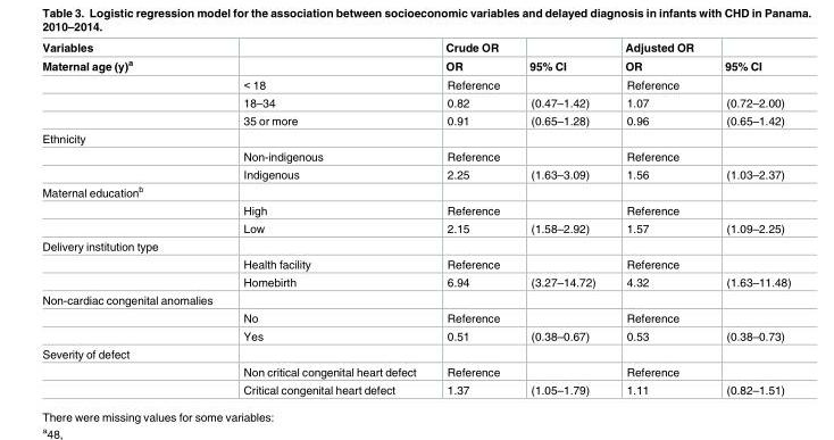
<table><thead><tr><td rowspan="2">Variables Maternal age (y)<sup>a</sup></td><td rowspan="2"></td><td rowspan="2">Crude OR OR</td><td rowspan="2">95% CI</td><td rowspan="2">Adjusted OR OR</td><td rowspan="2">95% CI</td></tr><tr></tr></thead><tbody><tr><td></td><td>&lt; 18</td><td>Reference</td><td></td><td>Reference</td><td></td></tr><tr><td></td><td>18–34</td><td>0.82</td><td>(0.47–1.42)</td><td>1.07</td><td>(0.72–2.00)</td></tr><tr><td></td><td>35 or more</td><td>0.91</td><td>(0.65–1.28)</td><td>0.96</td><td>(0.65–1.42)</td></tr><tr><td colspan="6">Ethnicity</td></tr><tr><td></td><td>Non-indigenous</td><td>Reference</td><td></td><td>Reference</td><td></td></tr><tr><td></td><td>Indigenous</td><td>2.25</td><td>(1.63–3.09)</td><td>1.56</td><td>(1.03–2.37)</td></tr><tr><td colspan="6">Maternal education<sup>b</sup></td></tr><tr><td></td><td>High</td><td>Reference</td><td></td><td>Reference</td><td></td></tr><tr><td></td><td>Low</td><td>2.15</td><td>(1.58–2.92)</td><td>1.57</td><td>(1.09–2.25)</td></tr><tr><td colspan="6">Delivery institution type</td></tr><tr><td></td><td>Health facility</td><td>Reference</td><td></td><td>Reference</td><td></td></tr><tr><td></td><td>Homebirth</td><td>6.94</td><td>(3.27–14.72)</td><td>4.32</td><td>(1.63–11.48)</td></tr><tr><td colspan="6">Non-cardiac congenital anomalies</td></tr><tr><td></td><td>No</td><td>Reference</td><td></td><td>Reference</td><td></td></tr><tr><td></td><td>Yes</td><td>0.51</td><td>(0.38–0.67)</td><td>0.53</td><td>(0.38–0.73)</td></tr><tr><td colspan="6">Severity of defect</td></tr><tr><td></td><td>Non critical congenital heart defect</td><td>Reference</td><td></td><td>Reference</td><td></td></tr><tr><td></td><td>Critical congenital heart defect</td><td>1.37</td><td>(1.05–1.79)</td><td>1.11</td><td>(0.82–1.51)</td></tr></tbody></table>